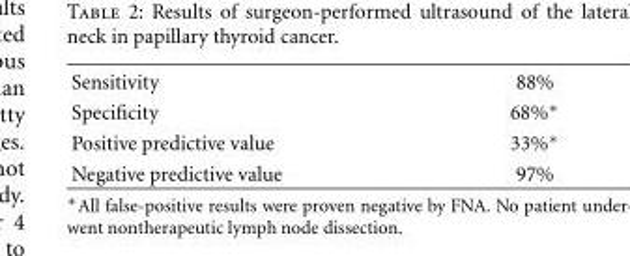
<table><tbody><tr><td>Sensitivity</td><td>88%</td></tr><tr><td>Specificity</td><td>68%∗</td></tr><tr><td>Positive predictive value</td><td>33%∗</td></tr><tr><td>Negative predictive value</td><td>97%</td></tr></tbody></table>